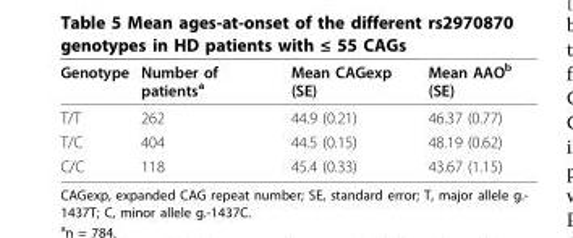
<table><thead><tr><td>Genotype</td><td>Number of patients<sup>a</sup></td><td>Mean CAGexp (SE)</td><td>Mean AAO<sup>b</sup> (SE)</td></tr></thead><tbody><tr><td>T/T</td><td>262</td><td>44.9 (0.21)</td><td>46.37 (0.77)</td></tr><tr><td>T/C</td><td>404</td><td>44.5 (0.15)</td><td>48.19 (0.62)</td></tr><tr><td>C/C</td><td>118</td><td>45.4 (0.33)</td><td>43.67 (1.15)</td></tr></tbody></table>